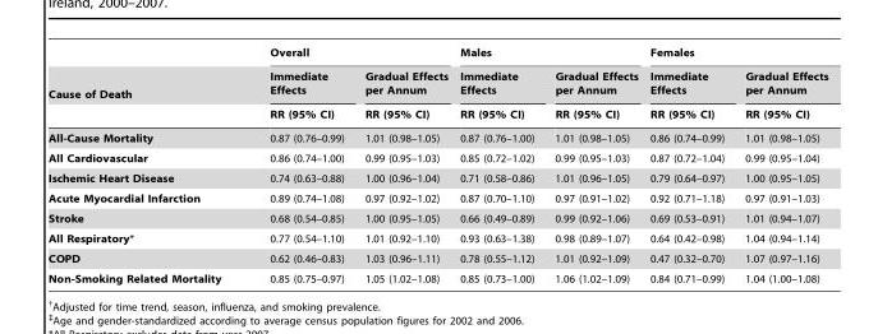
<table><thead><tr><td rowspan="3">Cause of Death</td><td colspan="2">Overall</td><td colspan="2">Males</td><td colspan="2">Females</td></tr><tr><td rowspan="2">Immediate Effects RR (95% CI)</td><td rowspan="2">Gradual Effects per Annum RR (95% CI)</td><td rowspan="2">Immediate Effects RR (95% CI)</td><td rowspan="2">Gradual Effects per Annum RR (95% CI)</td><td rowspan="2">Immediate Effects RR (95% CI)</td><td rowspan="2">Gradual Effects per Annum RR (95% CI)</td></tr><tr></tr></thead><tbody><tr><td>All-Cause Mortality</td><td>0.87 (0.76–0.99)</td><td>1.01 (0.98–1.05)</td><td>0.87 (0.76–1.00)</td><td>1.01 (0.98–1.05)</td><td>0.86 (0.74–0.99)</td><td>1.01 (0.98–1.05)</td></tr><tr><td>All Cardiovascular</td><td>0.86 (0.74–1.00)</td><td>0.99 (0.95–1.03)</td><td>0.85 (0.72–1.02)</td><td>0.99 (0.95–1.03)</td><td>0.87 (0.72–1.04)</td><td>0.99 (0.95–1.04)</td></tr><tr><td>Ischemic Heart Disease</td><td>0.74 (0.63–0.88)</td><td>1.00 (0.96–1.04)</td><td>0.71 (0.58–0.86)</td><td>1.01 (0.96–1.05)</td><td>0.79 (0.64–0.97)</td><td>1.00 (0.95–1.05)</td></tr><tr><td>Acute Myocardial Infarction</td><td>0.89 (0.74–1.08)</td><td>0.97 (0.92–1.02)</td><td>0.87 (0.70–1.10)</td><td>0.97 (0.91–1.02)</td><td>0.92 (0.71–1.18)</td><td>0.97 (0.91–1.03)</td></tr><tr><td>Stroke</td><td>0.68 (0.54–0.85)</td><td>1.00 (0.95–1.05)</td><td>0.66 (0.49–0.89)</td><td>0.99 (0.92–1.06)</td><td>0.69 (0.53–0.91)</td><td>1.01 (0.94–1.07)</td></tr><tr><td>All Respiratory*</td><td>0.77 (0.54–1.10)</td><td>1.01 (0.92–1.10)</td><td>0.93 (0.63–1.38)</td><td>0.98 (0.89–1.07)</td><td>0.64 (0.42–0.98)</td><td>1.04 (0.94–1.14)</td></tr><tr><td>COPD</td><td>0.62 (0.46–0.83)</td><td>1.03 (0.96–1.11)</td><td>0.78 (0.55–1.12)</td><td>1.01 (0.92–1.09)</td><td>0.47 (0.32–0.70)</td><td>1.07 (0.97–1.16)</td></tr><tr><td>Non-Smoking Related Mortality</td><td>0.85 (0.75–0.97)</td><td>1.05 (1.02–1.08)</td><td>0.85 (0.73–1.00)</td><td>1.06 (1.02–1.09)</td><td>0.84 (0.71–0.99)</td><td>1.04 (1.00–1.08)</td></tr></tbody></table>